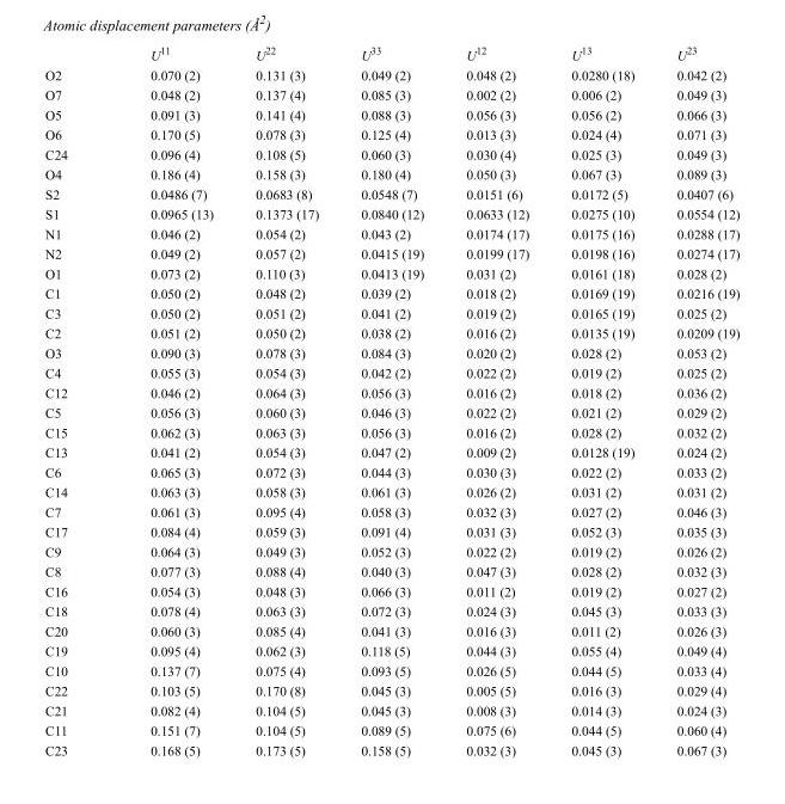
<table><thead><tr><td></td><td>U<sup>11</sup></td><td>U<sup>22</sup></td><td>U<sup>33</sup></td><td>U<sup>12</sup></td><td>U<sup>13</sup></td><td>U<sup>23</sup></td></tr></thead><tbody><tr><td>O2</td><td>0.070 (2)</td><td>0.131 (3)</td><td>0.049 (2)</td><td>0.048 (2)</td><td>0.0280 (18)</td><td>0.042 (2)</td></tr><tr><td>O7</td><td>0.048 (2)</td><td>0.137 (4)</td><td>0.085 (3)</td><td>0.002 (2)</td><td>0.006 (2)</td><td>0.049 (3)</td></tr><tr><td>O5</td><td>0.091 (3)</td><td>0.141 (4)</td><td>0.088 (3)</td><td>0.056 (3)</td><td>0.056 (2)</td><td>0.066 (3)</td></tr><tr><td>O6</td><td>0.170 (5)</td><td>0.078 (3)</td><td>0.125 (4)</td><td>0.013 (3)</td><td>0.024 (4)</td><td>0.071 (3)</td></tr><tr><td>C24</td><td>0.096 (4)</td><td>0.108 (5)</td><td>0.060 (3)</td><td>0.030 (4)</td><td>0.025 (3)</td><td>0.049 (3)</td></tr><tr><td>O4</td><td>0.186 (4)</td><td>0.158 (3)</td><td>0.180 (4)</td><td>0.050 (3)</td><td>0.067 (3)</td><td>0.089 (3)</td></tr><tr><td>S2</td><td>0.0486 (7)</td><td>0.0683 (8)</td><td>0.0548 (7)</td><td>0.0151 (6)</td><td>0.0172 (5)</td><td>0.0407 (6)</td></tr><tr><td>S1</td><td>0.0965 (13)</td><td>0.1373 (17)</td><td>0.0840 (12)</td><td>0.0633 (12)</td><td>0.0275 (10)</td><td>0.0554 (12)</td></tr><tr><td>N1</td><td>0.046 (2)</td><td>0.054 (2)</td><td>0.043 (2)</td><td>0.0174 (17)</td><td>0.0175 (16)</td><td>0.0288 (17)</td></tr><tr><td>N2</td><td>0.049 (2)</td><td>0.057 (2)</td><td>0.0415 (19)</td><td>0.0199 (17)</td><td>0.0198 (16)</td><td>0.0274 (17)</td></tr><tr><td>O1</td><td>0.073 (2)</td><td>0.110 (3)</td><td>0.0413 (19)</td><td>0.031 (2)</td><td>0.0161 (18)</td><td>0.028 (2)</td></tr><tr><td>C1</td><td>0.050 (2)</td><td>0.048 (2)</td><td>0.039 (2)</td><td>0.018 (2)</td><td>0.0169 (19)</td><td>0.0216 (19)</td></tr><tr><td>C3</td><td>0.050 (2)</td><td>0.051 (2)</td><td>0.041 (2)</td><td>0.019 (2)</td><td>0.0165 (19)</td><td>0.025 (2)</td></tr><tr><td>C2</td><td>0.051 (2)</td><td>0.050 (2)</td><td>0.038 (2)</td><td>0.016 (2)</td><td>0.0135 (19)</td><td>0.0209 (19)</td></tr><tr><td>O3</td><td>0.090 (3)</td><td>0.078 (3)</td><td>0.084 (3)</td><td>0.020 (2)</td><td>0.028 (2)</td><td>0.053 (2)</td></tr><tr><td>C4</td><td>0.055 (3)</td><td>0.054 (3)</td><td>0.042 (2)</td><td>0.022 (2)</td><td>0.019 (2)</td><td>0.025 (2)</td></tr><tr><td>C12</td><td>0.046 (2)</td><td>0.064 (3)</td><td>0.056 (3)</td><td>0.016 (2)</td><td>0.018 (2)</td><td>0.036 (2)</td></tr><tr><td>C5</td><td>0.056 (3)</td><td>0.060 (3)</td><td>0.046 (3)</td><td>0.022 (2)</td><td>0.021 (2)</td><td>0.029 (2)</td></tr><tr><td>C15</td><td>0.062 (3)</td><td>0.063 (3)</td><td>0.056 (3)</td><td>0.016 (2)</td><td>0.028 (2)</td><td>0.032 (2)</td></tr><tr><td>C13</td><td>0.041 (2)</td><td>0.054 (3)</td><td>0.047 (2)</td><td>0.009 (2)</td><td>0.0128 (19)</td><td>0.024 (2)</td></tr><tr><td>C6</td><td>0.065 (3)</td><td>0.072 (3)</td><td>0.044 (3)</td><td>0.030 (3)</td><td>0.022 (2)</td><td>0.033 (2)</td></tr><tr><td>C14</td><td>0.063 (3)</td><td>0.058 (3)</td><td>0.061 (3)</td><td>0.026 (2)</td><td>0.031 (2)</td><td>0.031 (2)</td></tr><tr><td>C7</td><td>0.061 (3)</td><td>0.095 (4)</td><td>0.058 (3)</td><td>0.032 (3)</td><td>0.027 (2)</td><td>0.046 (3)</td></tr><tr><td>C17</td><td>0.084 (4)</td><td>0.059 (3)</td><td>0.091 (4)</td><td>0.031 (3)</td><td>0.052 (3)</td><td>0.035 (3)</td></tr><tr><td>C9</td><td>0.064 (3)</td><td>0.049 (3)</td><td>0.052 (3)</td><td>0.022 (2)</td><td>0.019 (2)</td><td>0.026 (2)</td></tr><tr><td>C8</td><td>0.077 (3)</td><td>0.088 (4)</td><td>0.040 (3)</td><td>0.047 (3)</td><td>0.028 (2)</td><td>0.032 (3)</td></tr><tr><td>C16</td><td>0.054 (3)</td><td>0.048 (3)</td><td>0.066 (3)</td><td>0.011 (2)</td><td>0.019 (2)</td><td>0.027 (2)</td></tr><tr><td>C18</td><td>0.078 (4)</td><td>0.063 (3)</td><td>0.072 (3)</td><td>0.024 (3)</td><td>0.045 (3)</td><td>0.033 (3)</td></tr><tr><td>C20</td><td>0.060 (3)</td><td>0.085 (4)</td><td>0.041 (3)</td><td>0.016 (3)</td><td>0.011 (2)</td><td>0.026 (3)</td></tr><tr><td>C19</td><td>0.095 (4)</td><td>0.062 (3)</td><td>0.118 (5)</td><td>0.044 (3)</td><td>0.055 (4)</td><td>0.049 (4)</td></tr><tr><td>C10</td><td>0.137 (7)</td><td>0.075 (4)</td><td>0.093 (5)</td><td>0.026 (5)</td><td>0.044 (5)</td><td>0.033 (4)</td></tr><tr><td>C22</td><td>0.103 (5)</td><td>0.170 (8)</td><td>0.045 (3)</td><td>0.005 (5)</td><td>0.016 (3)</td><td>0.029 (4)</td></tr><tr><td>C21</td><td>0.082 (4)</td><td>0.104 (5)</td><td>0.045 (3)</td><td>0.008 (3)</td><td>0.014 (3)</td><td>0.024 (3)</td></tr><tr><td>C11</td><td>0.151 (7)</td><td>0.104 (5)</td><td>0.089 (5)</td><td>0.075 (6)</td><td>0.044 (5)</td><td>0.060 (4)</td></tr><tr><td>C23</td><td>0.168 (5)</td><td>0.173 (5)</td><td>0.158 (5)</td><td>0.032 (3)</td><td>0.045 (3)</td><td>0.067 (3)</td></tr></tbody></table>